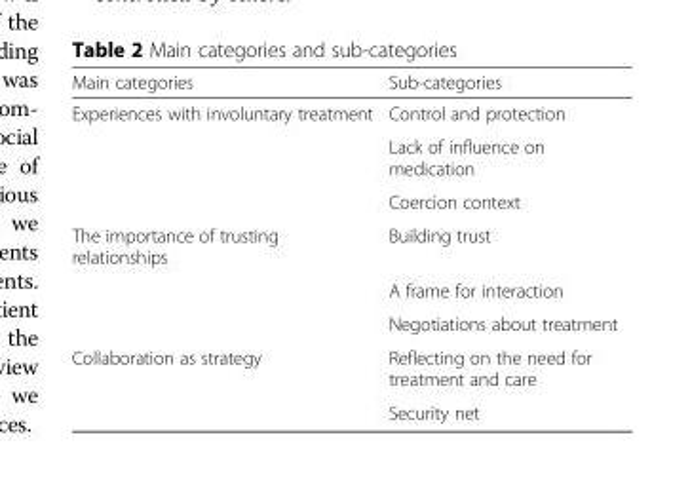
<table><thead><tr><td>Main categories</td><td>Sub-categories</td></tr></thead><tbody><tr><td rowspan="3">Experiences with involuntary treatment</td><td>Control and protection</td></tr><tr><td>Lack of influence on medication</td></tr><tr><td>Coercion context</td></tr><tr><td rowspan="3">The importance of trusting relationships</td><td>Building trust</td></tr><tr><td>A frame for interaction</td></tr><tr><td>Negotiations about treatment</td></tr><tr><td rowspan="2">Collaboration as strategy</td><td>Reflecting on the need for treatment and care</td></tr><tr><td>Security net</td></tr></tbody></table>